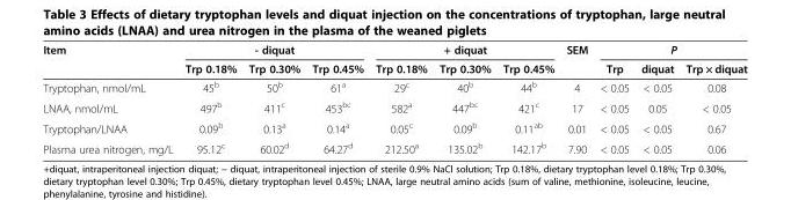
<table><thead><tr><td rowspan="2">Item</td><td colspan="3">- diquat</td><td colspan="3">+ diquat</td><td rowspan="2">SEM</td><td colspan="3">P</td></tr><tr><td>Trp 0.18%</td><td>Trp 0.30%</td><td>Trp 0.45%</td><td>Trp 0.18%</td><td>Trp 0.30%</td><td>Trp 0.45%</td><td>Trp</td><td>diquat</td><td>Trp × diquat</td></tr></thead><tbody><tr><td>Tryptophan, nmol/mL</td><td>45<sup>b</sup></td><td>50<sup>b</sup></td><td>61<sup>a</sup></td><td>29<sup>c</sup></td><td>40<sup>b</sup></td><td>44<sup>b</sup></td><td>4</td><td>&lt; 0.05</td><td>&lt; 0.05</td><td>0.08</td></tr><tr><td>LNAA, nmol/mL</td><td>497<sup>b</sup></td><td>411<sup>c</sup></td><td>453<sup>bc</sup></td><td>582<sup>a</sup></td><td>447<sup>bc</sup></td><td>421<sup>c</sup></td><td>17</td><td>&lt; 0.05</td><td>0.05</td><td>&lt; 0.05</td></tr><tr><td>Tryptophan/LNAA</td><td>0.09<sup>b</sup></td><td>0.13<sup>a</sup></td><td>0.14<sup>a</sup></td><td>0.05<sup>c</sup></td><td>0.09<sup>b</sup></td><td>0.11<sup>ab</sup></td><td>0.01</td><td>&lt; 0.05</td><td>&lt; 0.05</td><td>0.67</td></tr><tr><td>Plasma urea nitrogen, mg/L</td><td>95.12<sup>c</sup></td><td>60.02<sup>d</sup></td><td>64.27<sup>d</sup></td><td>212.50<sup>a</sup></td><td>135.02<sup>b</sup></td><td>142.17<sup>b</sup></td><td>7.90</td><td>&lt; 0.05</td><td>&lt; 0.05</td><td>0.06</td></tr></tbody></table>